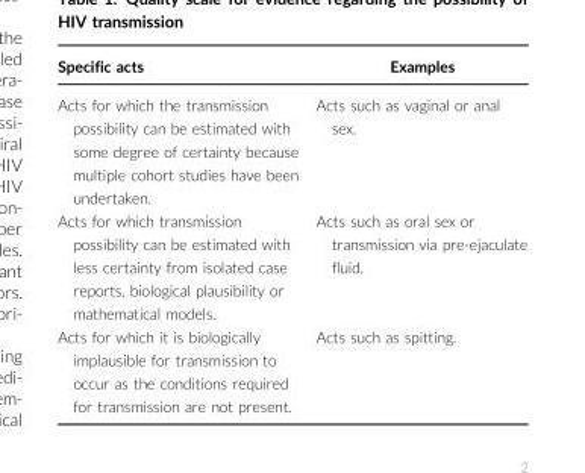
<table><thead><tr><td>Specific acts</td><td>Examples</td></tr></thead><tbody><tr><td>Acts for which the transmission possibility can be estimated with some degree of certainty because multiple cohort studies have been undertaken.</td><td>Acts such as vaginal or anal sex.</td></tr><tr><td>Acts for which transmission possibility can be estimated with less certainty from isolated case reports, biological plausibility or mathematical models.</td><td>Acts such as oral sex or transmission via pre-ejaculate fluid.</td></tr><tr><td>Acts for which it is biologically implausible for transmission to occur as the conditions required for transmission are not present.</td><td>Acts such as spitting.</td></tr></tbody></table>